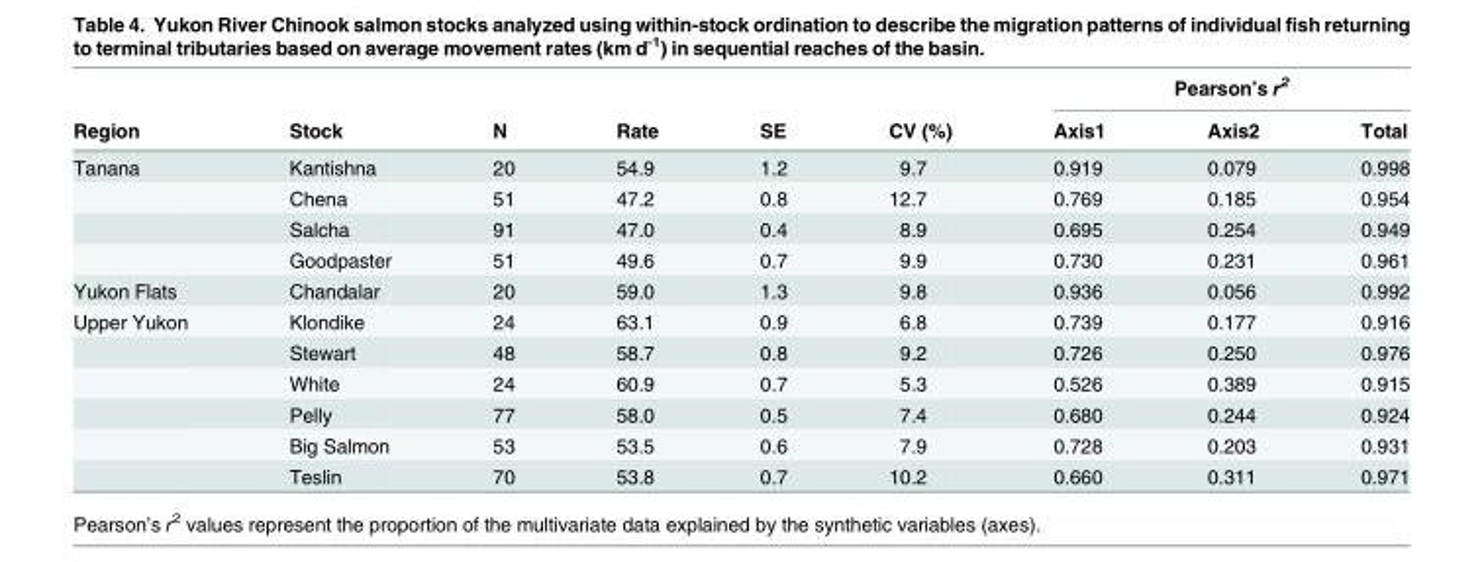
<table><thead><tr><td rowspan="2">Region</td><td rowspan="2">Stock</td><td rowspan="2">N</td><td rowspan="2">Rate</td><td rowspan="2">SE</td><td rowspan="2">CV (%)</td><td colspan="3">Pearson’s r<sup>2</sup></td></tr><tr><td>Axis1</td><td>Axis2</td><td>Total</td></tr></thead><tbody><tr><td rowspan="4">Tanana</td><td>Kantishna</td><td>20</td><td>54.9</td><td>1.2</td><td>9.7</td><td>0.919</td><td>0.079</td><td>0.998</td></tr><tr><td>Chena</td><td>51</td><td>47.2</td><td>0.8</td><td>12.7</td><td>0.769</td><td>0.185</td><td>0.954</td></tr><tr><td>Salcha</td><td>91</td><td>47.0</td><td>0.4</td><td>8.9</td><td>0.695</td><td>0.254</td><td>0.949</td></tr><tr><td>Goodpaster</td><td>51</td><td>49.6</td><td>0.7</td><td>9.9</td><td>0.730</td><td>0.231</td><td>0.961</td></tr><tr><td>Yukon Flats</td><td>Chandalar</td><td>20</td><td>59.0</td><td>1.3</td><td>9.8</td><td>0.936</td><td>0.056</td><td>0.992</td></tr><tr><td rowspan="6">Upper Yukon</td><td>Klondike</td><td>24</td><td>63.1</td><td>0.9</td><td>6.8</td><td>0.739</td><td>0.177</td><td>0.916</td></tr><tr><td>Stewart</td><td>48</td><td>58.7</td><td>0.8</td><td>9.2</td><td>0.726</td><td>0.250</td><td>0.976</td></tr><tr><td>White</td><td>24</td><td>60.9</td><td>0.7</td><td>5.3</td><td>0.526</td><td>0.389</td><td>0.915</td></tr><tr><td>Pelly</td><td>77</td><td>58.0</td><td>0.5</td><td>7.4</td><td>0.680</td><td>0.244</td><td>0.924</td></tr><tr><td>Big Salmon</td><td>53</td><td>53.5</td><td>0.6</td><td>7.9</td><td>0.728</td><td>0.203</td><td>0.931</td></tr><tr><td>Teslin</td><td>70</td><td>53.8</td><td>0.7</td><td>10.2</td><td>0.660</td><td>0.311</td><td>0.971</td></tr></tbody></table>